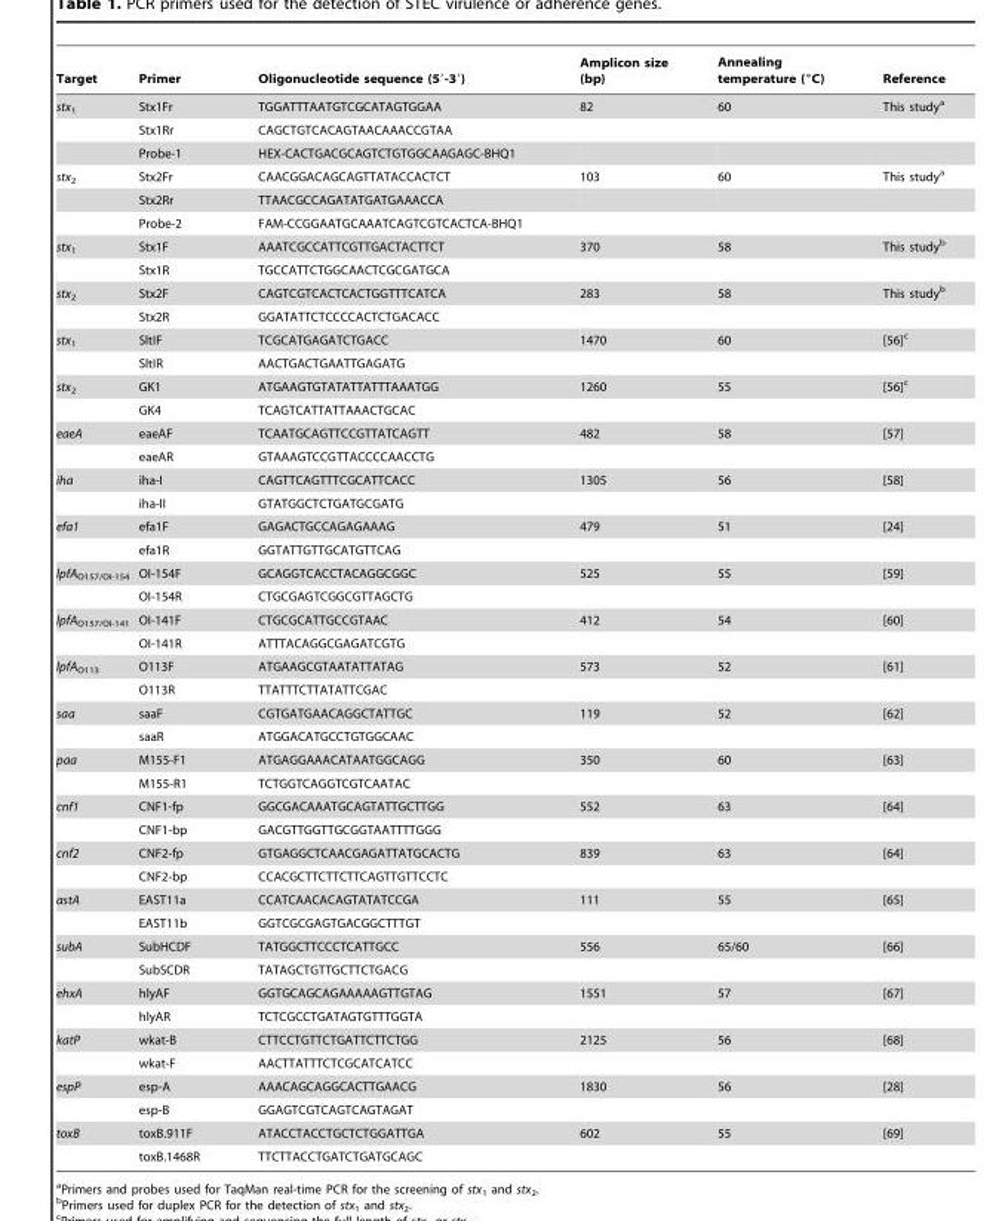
<table><thead><tr><td>Target</td><td>Primer</td><td>Oligonucleotide sequence (5′-3′)</td><td>Amplicon size (bp)</td><td>Annealing temperature (°C)</td><td>Reference</td></tr></thead><tbody><tr><td rowspan="3">stx<sub>1</sub></td><td>Stx1Fr</td><td>TGGATTTAATGTCGCATAGTGGAA</td><td>82</td><td>60</td><td>This study<sup>a</sup></td></tr><tr><td>Stx1Rr</td><td>CAGCTGTCACAGTAACAAACCGTAA</td><td></td><td></td><td></td></tr><tr><td>Probe-1</td><td>HEX-CACTGACGCAGTCTGTGGCAAGAGC-BHQ1</td><td></td><td></td><td></td></tr><tr><td rowspan="3">stx<sub>2</sub></td><td>Stx2Fr</td><td>CAACGGACAGCAGTTATACCACTCT</td><td>103</td><td>60</td><td>This study<sup>a</sup></td></tr><tr><td>Stx2Rr</td><td>TTAACGCCAGATATGATGAAACCA</td><td></td><td></td><td></td></tr><tr><td>Probe-2</td><td>FAM-CCGGAATGCAAATCAGTCGTCACTCA-BHQ1</td><td></td><td></td><td></td></tr><tr><td rowspan="2">stx<sub>1</sub></td><td>Stx1F</td><td>AAATCGCCATTCGTTGACTACTTCT</td><td>370</td><td>58</td><td>This study<sup>b</sup></td></tr><tr><td>Stx1R</td><td>TGCCATTCTGGCAACTCGCGATGCA</td><td></td><td></td><td></td></tr><tr><td rowspan="2">stx<sub>2</sub></td><td>Stx2F</td><td>CAGTCGTCACTCACTGGTTTCATCA</td><td>283</td><td>58</td><td>This study<sup>b</sup></td></tr><tr><td>Stx2R</td><td>GGATATTCTCCCCACTCTGACACC</td><td></td><td></td><td></td></tr><tr><td rowspan="2">stx<sub>1</sub></td><td>SltIF</td><td>TCGCATGAGATCTGACC</td><td>1470</td><td>60</td><td>[56]c</td></tr><tr><td>SltIR</td><td>AACTGACTGAATTGAGATG</td><td></td><td></td><td></td></tr><tr><td rowspan="2">stx<sub>2</sub></td><td>GK1</td><td>ATGAAGTGTATATTATTTAAATGG</td><td>1260</td><td>55</td><td>[56]c</td></tr><tr><td>GK4</td><td>TCAGTCATTATTAAACTGCAC</td><td></td><td></td><td></td></tr><tr><td rowspan="2">eaeA</td><td>eaeAF</td><td>TCAATGCAGTTCCGTTATCAGTT</td><td>482</td><td>58</td><td>[57]</td></tr><tr><td>eaeAR</td><td>GTAAAGTCCGTTACCCCAACCTG</td><td></td><td></td><td></td></tr><tr><td rowspan="2">iha</td><td>iha-I</td><td>CAGTTCAGTTTCGCATTCACC</td><td>1305</td><td>56</td><td>[58]</td></tr><tr><td>iha-II</td><td>GTATGGCTCTGATGCGATG</td><td></td><td></td><td></td></tr><tr><td rowspan="2">efa1</td><td>efa1F</td><td>GAGACTGCCAGAGAAAG</td><td>479</td><td>51</td><td>[24]</td></tr><tr><td>efa1R</td><td>GGTATTGTTGCATGTTCAG</td><td></td><td></td><td></td></tr><tr><td rowspan="2">lpfA<sub>O157/OI-154</sub></td><td>OI-154F</td><td>GCAGGTCACCTACAGGCGGC</td><td>525</td><td>55</td><td>[59]</td></tr><tr><td>OI-154R</td><td>CTGCGAGTCGGCGTTAGCTG</td><td></td><td></td><td></td></tr><tr><td rowspan="2">lpfA<sub>O157/OI-141</sub></td><td>OI-141F</td><td>CTGCGCATTGCCGTAAC</td><td>412</td><td>54</td><td>[60]</td></tr><tr><td>OI-141R</td><td>ATTTACAGGCGAGATCGTG</td><td></td><td></td><td></td></tr><tr><td rowspan="2">lpfA<sub>O113</sub></td><td>O113F</td><td>ATGAAGCGTAATATTATAG</td><td>573</td><td>52</td><td>[61]</td></tr><tr><td>O113R</td><td>TTATTTCTTATATTCGAC</td><td></td><td></td><td></td></tr><tr><td rowspan="2">saa</td><td>saaF</td><td>CGTGATGAACAGGCTATTGC</td><td>119</td><td>52</td><td>[62]</td></tr><tr><td>saaR</td><td>ATGGACATGCCTGTGGCAAC</td><td></td><td></td><td></td></tr><tr><td rowspan="2">paa</td><td>M155-F1</td><td>ATGAGGAAACATAATGGCAGG</td><td>350</td><td>60</td><td>[63]</td></tr><tr><td>M155-R1</td><td>TCTGGTCAGGTCGTCAATAC</td><td></td><td></td><td></td></tr><tr><td rowspan="2">cnf1</td><td>CNF1-fp</td><td>GGCGACAAATGCAGTATTGCTTGG</td><td>552</td><td>63</td><td>[64]</td></tr><tr><td>CNF1-bp</td><td>GACGTTGGTTGCGGTAATTTTGGG</td><td></td><td></td><td></td></tr><tr><td rowspan="2">cnf2</td><td>CNF2-fp</td><td>GTGAGGCTCAACGAGATTATGCACTG</td><td>839</td><td>63</td><td>[64]</td></tr><tr><td>CNF2-bp</td><td>CCACGCTTCTTCTTCAGTTGTTCCTC</td><td></td><td></td><td></td></tr><tr><td rowspan="2">astA</td><td>EAST11a</td><td>CCATCAACACAGTATATCCGA</td><td>111</td><td>55</td><td>[65]</td></tr><tr><td>EAST11b</td><td>GGTCGCGAGTGACGGCTTTGT</td><td></td><td></td><td></td></tr><tr><td rowspan="2">subA</td><td>SubHCDF</td><td>TATGGCTTCCCTCATTGCC</td><td>556</td><td>65/60</td><td>[66]</td></tr><tr><td>SubSCDR</td><td>TATAGCTGTTGCTTCTGACG</td><td></td><td></td><td></td></tr><tr><td rowspan="2">ehxA</td><td>hlyAF</td><td>GGTGCAGCAGAAAAAGTTGTAG</td><td>1551</td><td>57</td><td>[67]</td></tr><tr><td>hlyAR</td><td>TCTCGCCTGATAGTGTTTGGTA</td><td></td><td></td><td></td></tr><tr><td rowspan="2">katP</td><td>wkat-B</td><td>CTTCCTGTTCTGATTCTTCTGG</td><td>2125</td><td>56</td><td>[68]</td></tr><tr><td>wkat-F</td><td>AACTTATTTCTCGCATCATCC</td><td></td><td></td><td></td></tr><tr><td rowspan="2">espP</td><td>esp-A</td><td>AAACAGCAGGCACTTGAACG</td><td>1830</td><td>56</td><td>[28]</td></tr><tr><td>esp-B</td><td>GGAGTCGTCAGTCAGTAGAT</td><td></td><td></td><td></td></tr><tr><td rowspan="2">toxB</td><td>toxB.911F</td><td>ATACCTACCTGCTCTGGATTGA</td><td>602</td><td>55</td><td>[69]</td></tr><tr><td>toxB.1468R</td><td>TTCTTACCTGATCTGATGCAGC</td><td></td><td></td><td></td></tr></tbody></table>